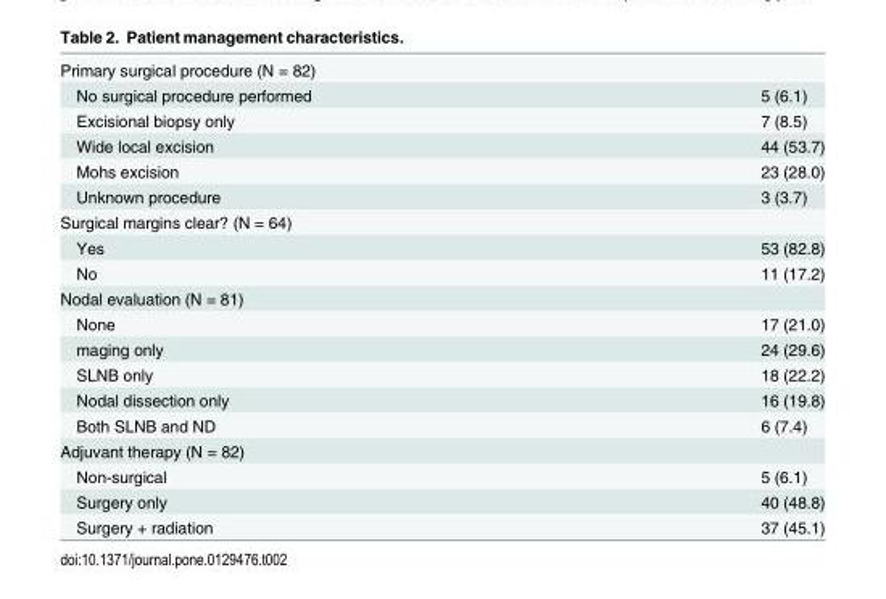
<table><tbody><tr><td colspan="2">Primary surgical procedure (N = 82)</td></tr><tr><td>No surgical procedure performed</td><td>5 (6.1)</td></tr><tr><td>Excisional biopsy only</td><td>7 (8.5)</td></tr><tr><td>Wide local excision</td><td>44 (53.7)</td></tr><tr><td>Mohs excision</td><td>23 (28.0)</td></tr><tr><td>Unknown procedure</td><td>3 (3.7)</td></tr><tr><td colspan="2">Surgical margins clear? (N = 64)</td></tr><tr><td>Yes</td><td>53 (82.8)</td></tr><tr><td>No</td><td>11 (17.2)</td></tr><tr><td colspan="2">Nodal evaluation (N = 81)</td></tr><tr><td>None</td><td>17 (21.0)</td></tr><tr><td>maging only</td><td>24 (29.6)</td></tr><tr><td>SLNB only</td><td>18 (22.2)</td></tr><tr><td>Nodal dissection only</td><td>16 (19.8)</td></tr><tr><td>Both SLNB and ND</td><td>6 (7.4)</td></tr><tr><td colspan="2">Adjuvant therapy (N = 82)</td></tr><tr><td>Non-surgical</td><td>5 (6.1)</td></tr><tr><td>Surgery only</td><td>40 (48.8)</td></tr><tr><td>Surgery + radiation</td><td>37 (45.1)</td></tr></tbody></table>